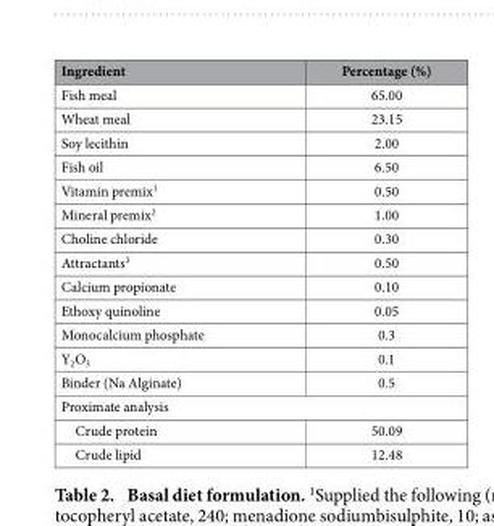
<table><thead><tr><td>Ingredient</td><td>Percentage (%)</td></tr></thead><tbody><tr><td>Fish meal</td><td>65.00</td></tr><tr><td>Wheat meal</td><td>23.15</td></tr><tr><td>Soy lecithin</td><td>2.00</td></tr><tr><td>Fish oil</td><td>6.50</td></tr><tr><td>Vitamin premix<sup>1</sup></td><td>0.50</td></tr><tr><td>Mineral premix<sup>2</sup></td><td>1.00</td></tr><tr><td>Choline chloride</td><td>0.30</td></tr><tr><td>Attractants<sup>3</sup></td><td>0.50</td></tr><tr><td>Calcium propionate</td><td>0.10</td></tr><tr><td>Ethoxy quinoline</td><td>0.05</td></tr><tr><td>Monocalcium phosphate</td><td>0.3</td></tr><tr><td>Y<sub>2</sub>O<sub>3</sub></td><td>0.1</td></tr><tr><td>Binder (Na Alginate)</td><td>0.5</td></tr><tr><td colspan="2">Proximate analysis</td></tr><tr><td>Crude protein</td><td>50.09</td></tr><tr><td>Crude lipid</td><td>12.48</td></tr></tbody></table>